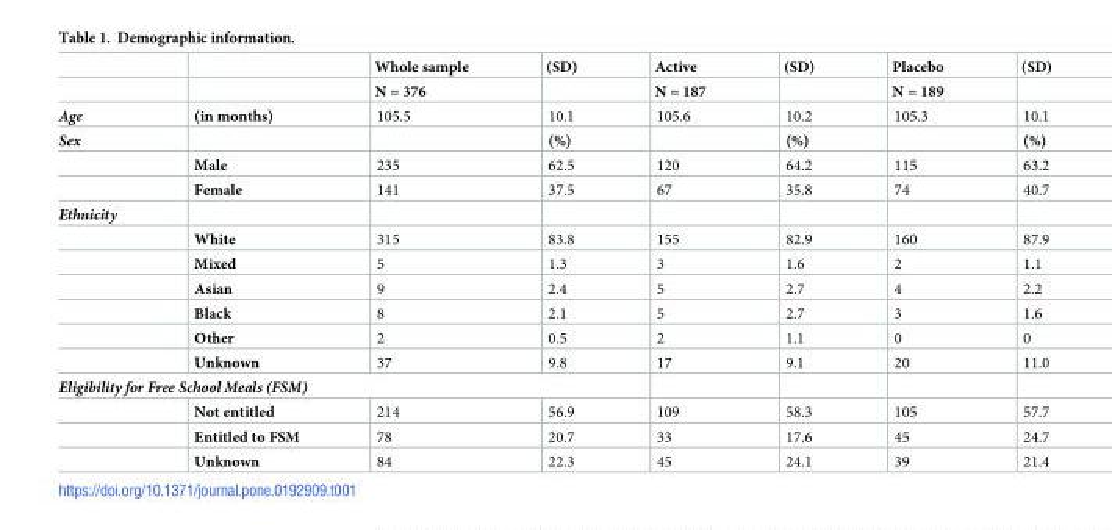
<table><thead><tr><td rowspan="2"></td><td rowspan="2"></td><td rowspan="2">Whole sample N = 376</td><td rowspan="2">(SD)</td><td rowspan="2">Active N = 187</td><td rowspan="2">(SD)</td><td rowspan="2">Placebo N = 189</td><td rowspan="2">(SD)</td></tr><tr></tr></thead><tbody><tr><td>Age</td><td>(in months)</td><td>105.5</td><td>10.1</td><td>105.6</td><td>10.2</td><td>105.3</td><td>10.1</td></tr><tr><td rowspan="3">Sex</td><td></td><td></td><td>(%)</td><td></td><td>(%)</td><td></td><td>(%)</td></tr><tr><td>Male</td><td>235</td><td>62.5</td><td>120</td><td>64.2</td><td>115</td><td>63.2</td></tr><tr><td>Female</td><td>141</td><td>37.5</td><td>67</td><td>35.8</td><td>74</td><td>40.7</td></tr><tr><td colspan="8">Ethnicity</td></tr><tr><td></td><td>White</td><td>315</td><td>83.8</td><td>155</td><td>82.9</td><td>160</td><td>87.9</td></tr><tr><td></td><td>Mixed</td><td>5</td><td>1.3</td><td>3</td><td>1.6</td><td>2</td><td>1.1</td></tr><tr><td></td><td>Asian</td><td>9</td><td>2.4</td><td>5</td><td>2.7</td><td>4</td><td>2.2</td></tr><tr><td></td><td>Black</td><td>8</td><td>2.1</td><td>5</td><td>2.7</td><td>3</td><td>1.6</td></tr><tr><td></td><td>Other</td><td>2</td><td>0.5</td><td>2</td><td>1.1</td><td>0</td><td>0</td></tr><tr><td></td><td>Unknown</td><td>37</td><td>9.8</td><td>17</td><td>9.1</td><td>20</td><td>11.0</td></tr><tr><td colspan="8">Eligibility for Free School Meals (FSM)</td></tr><tr><td></td><td>Not entitled</td><td>214</td><td>56.9</td><td>109</td><td>58.3</td><td>105</td><td>57.7</td></tr><tr><td></td><td>Entitled to FSM</td><td>78</td><td>20.7</td><td>33</td><td>17.6</td><td>45</td><td>24.7</td></tr><tr><td></td><td>Unknown</td><td>84</td><td>22.3</td><td>45</td><td>24.1</td><td>39</td><td>21.4</td></tr></tbody></table>